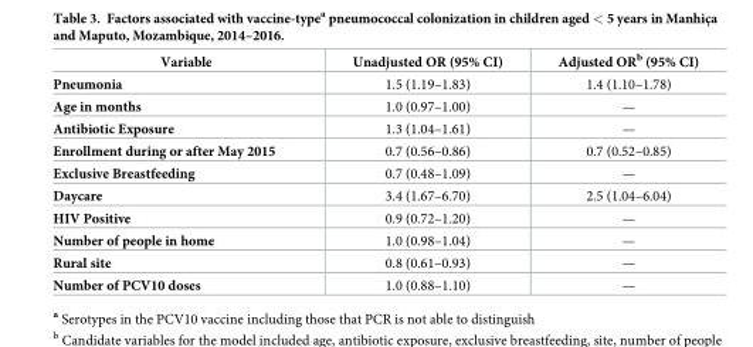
<table><thead><tr><td>Variable</td><td>Unadjusted OR (95% CI)</td><td>Adjusted OR<sup>b</sup> (95% CI)</td></tr></thead><tbody><tr><td>Pneumonia</td><td>1.5 (1.19–1.83)</td><td>1.4 (1.10–1.78)</td></tr><tr><td>Age in months</td><td>1.0 (0.97–1.00)</td><td>—</td></tr><tr><td>Antibiotic Exposure</td><td>1.3 (1.04–1.61)</td><td>—</td></tr><tr><td>Enrollment during or after May 2015</td><td>0.7 (0.56–0.86)</td><td>0.7 (0.52–0.85)</td></tr><tr><td>Exclusive Breastfeeding</td><td>0.7 (0.48–1.09)</td><td>—</td></tr><tr><td>Daycare</td><td>3.4 (1.67–6.70)</td><td>2.5 (1.04–6.04)</td></tr><tr><td>HIV Positive</td><td>0.9 (0.72–1.20)</td><td>—</td></tr><tr><td>Number of people in home</td><td>1.0 (0.98–1.04)</td><td>—</td></tr><tr><td>Rural site</td><td>0.8 (0.61–0.93)</td><td>—</td></tr><tr><td>Number of PCV10 doses</td><td>1.0 (0.88–1.10)</td><td>—</td></tr></tbody></table>